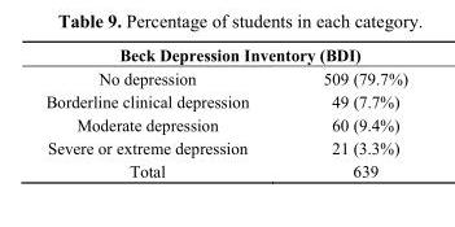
<table><thead><tr><td colspan="2">Beck Depression Inventory (BDI)</td></tr><tr><td>No depression</td><td>509 (79.7%)</td></tr></thead><tbody><tr><td>Borderline clinical depression</td><td>49 (7.7%)</td></tr><tr><td>Moderate depression</td><td>60 (9.4%)</td></tr><tr><td>Severe or extreme depression</td><td>21 (3.3%)</td></tr><tr><td>Total</td><td>639</td></tr></tbody></table>